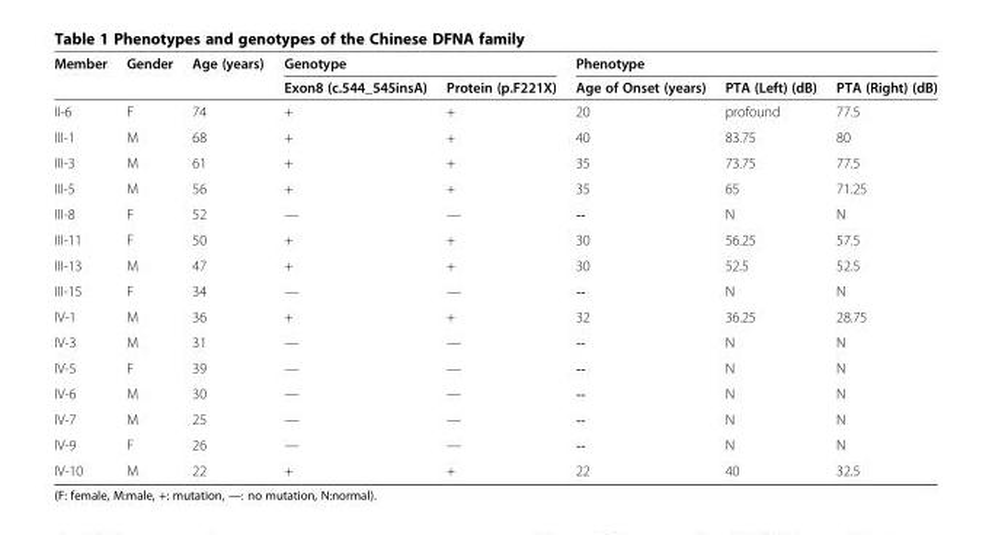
<table><thead><tr><td rowspan="2">Member</td><td rowspan="2">Gender</td><td rowspan="2">Age (years)</td><td colspan="2">Genotype</td><td colspan="3">Phenotype</td></tr><tr><td>Exon8 (c.544_545insA)</td><td>Protein (p.F221X)</td><td>Age of Onset (years)</td><td>PTA (Left) (dB)</td><td>PTA (Right) (dB)</td></tr></thead><tbody><tr><td>II-6</td><td>F</td><td>74</td><td>+</td><td>+</td><td>20</td><td>profound</td><td>77.5</td></tr><tr><td>III-1</td><td>M</td><td>68</td><td>+</td><td>+</td><td>40</td><td>83.75</td><td>80</td></tr><tr><td>III-3</td><td>M</td><td>61</td><td>+</td><td>+</td><td>35</td><td>73.75</td><td>77.5</td></tr><tr><td>III-5</td><td>M</td><td>56</td><td>+</td><td>+</td><td>35</td><td>65</td><td>71.25</td></tr><tr><td>III-8</td><td>F</td><td>52</td><td>—</td><td>—</td><td>--</td><td>N</td><td>N</td></tr><tr><td>III-11</td><td>F</td><td>50</td><td>+</td><td>+</td><td>30</td><td>56.25</td><td>57.5</td></tr><tr><td>III-13</td><td>M</td><td>47</td><td>+</td><td>+</td><td>30</td><td>52.5</td><td>52.5</td></tr><tr><td>III-15</td><td>F</td><td>34</td><td>—</td><td>—</td><td>--</td><td>N</td><td>N</td></tr><tr><td>IV-1</td><td>M</td><td>36</td><td>+</td><td>+</td><td>32</td><td>36.25</td><td>28.75</td></tr><tr><td>IV-3</td><td>M</td><td>31</td><td>—</td><td>—</td><td>--</td><td>N</td><td>N</td></tr><tr><td>IV-5</td><td>F</td><td>39</td><td>—</td><td>—</td><td>--</td><td>N</td><td>N</td></tr><tr><td>IV-6</td><td>M</td><td>30</td><td>—</td><td>—</td><td>--</td><td>N</td><td>N</td></tr><tr><td>IV-7</td><td>M</td><td>25</td><td>—</td><td>—</td><td>--</td><td>N</td><td>N</td></tr><tr><td>IV-9</td><td>F</td><td>26</td><td>—</td><td>—</td><td>--</td><td>N</td><td>N</td></tr><tr><td>IV-10</td><td>M</td><td>22</td><td>+</td><td>+</td><td>22</td><td>40</td><td>32.5</td></tr></tbody></table>